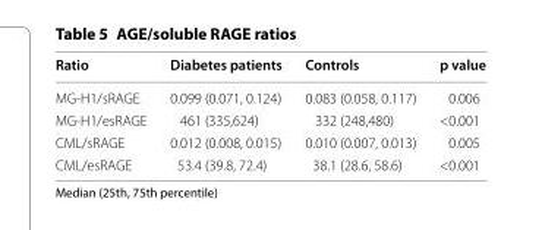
<table><thead><tr><td>Ratio</td><td>Diabetes patients</td><td>Controls</td><td>p value</td></tr></thead><tbody><tr><td>MG‑H1/sRAGE</td><td>0.099 (0.071, 0.124)</td><td>0.083 (0.058, 0.117)</td><td>0.006</td></tr><tr><td>MG‑H1/esRAGE</td><td>461 (335,624)</td><td>332 (248,480)</td><td>&lt;0.001</td></tr><tr><td>CML/sRAGE</td><td>0.012 (0.008, 0.015)</td><td>0.010 (0.007, 0.013)</td><td>0.005</td></tr><tr><td>CML/esRAGE</td><td>53.4 (39.8, 72.4)</td><td>38.1 (28.6, 58.6)</td><td>&lt;0.001</td></tr></tbody></table>